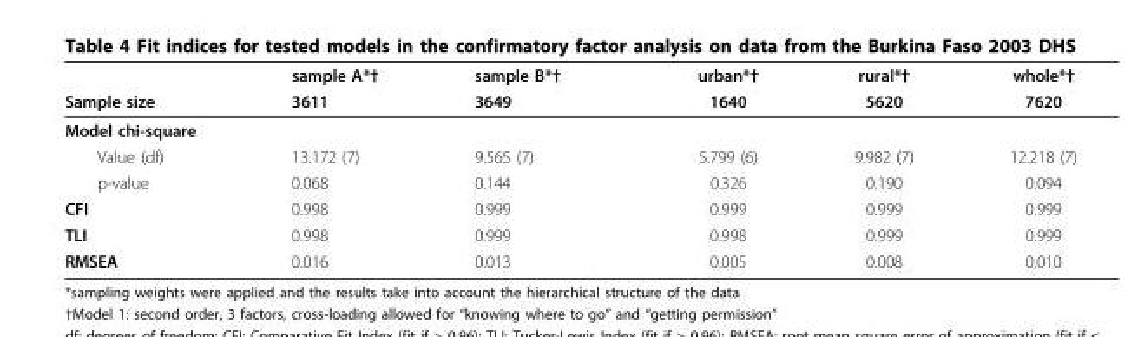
<table><thead><tr><td rowspan="2">Sample size</td><td rowspan="2">sample A*† 3611</td><td rowspan="2">sample B*† 3649</td><td rowspan="2">urban*† 1640</td><td rowspan="2">rural*† 5620</td><td rowspan="2">whole*† 7620</td></tr><tr></tr></thead><tbody><tr><td colspan="6">Model chi-square</td></tr><tr><td>Value (df)</td><td>13.172 (7)</td><td>9.565 (7)</td><td>5.799 (6)</td><td>9.982 (7)</td><td>12.218 (7)</td></tr><tr><td>p-value</td><td>0.068</td><td>0.144</td><td>0.326</td><td>0.190</td><td>0.094</td></tr><tr><td>CFI</td><td>0.998</td><td>0.999</td><td>0.999</td><td>0.999</td><td>0.999</td></tr><tr><td>TLI</td><td>0.998</td><td>0.999</td><td>0.998</td><td>0.999</td><td>0.999</td></tr><tr><td>RMSEA</td><td>0.016</td><td>0.013</td><td>0.005</td><td>0.008</td><td>0.010</td></tr></tbody></table>